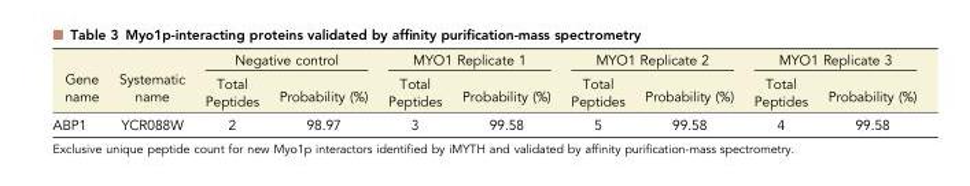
<table><thead><tr><td rowspan="2">Gene name</td><td rowspan="2">Systematic name</td><td colspan="2">Negative control</td><td colspan="2">MYO1 Replicate 1</td><td colspan="2">MYO1 Replicate 2</td><td colspan="2">MYO1 Replicate 3</td></tr><tr><td>Total Peptides</td><td>Probability (%)</td><td>Total Peptides</td><td>Probability (%)</td><td>Total Peptides</td><td>Probability (%)</td><td>Total Peptides</td><td>Probability (%)</td></tr></thead><tbody><tr><td>ABP1</td><td>YCR088W</td><td>2</td><td>98.97</td><td>3</td><td>99.58</td><td>5</td><td>99.58</td><td>4</td><td>99.58</td></tr></tbody></table>